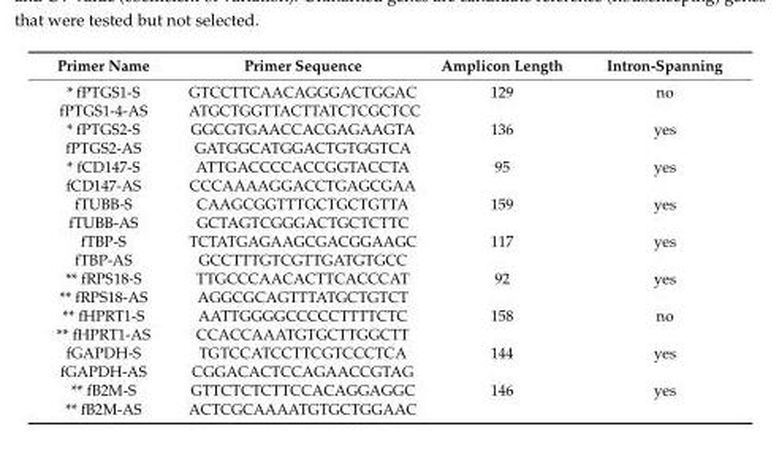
<table><thead><tr><td>Primer Name</td><td>Primer Sequence</td><td>Amplicon Length</td><td>Intron-Spanning</td></tr></thead><tbody><tr><td>* fPTGS1-S</td><td>GTCCTTCAACAGGGACTGGAC</td><td>129</td><td>no</td></tr><tr><td>fPTGS1-4-AS</td><td>ATGCTGGTTACTTATCTCGCTCC</td><td></td><td></td></tr><tr><td>* fPTGS2-S</td><td>GGCGTGAACCACGAGAAGTA</td><td>136</td><td>yes</td></tr><tr><td>fPTGS2-AS</td><td>GATGGCATGGACTGTGGTCA</td><td></td><td></td></tr><tr><td>* fCD147-S</td><td>ATTGACCCCACCGGTACCTA</td><td>95</td><td>yes</td></tr><tr><td>fCD147-AS</td><td>CCCAAAAGGACCTGAGCGAA</td><td></td><td></td></tr><tr><td>fTUBB-S</td><td>CAAGCGGTTTGCTGCTGTTA</td><td>159</td><td>yes</td></tr><tr><td>fTUBB-AS</td><td>GCTAGTCGGGACTGCTCTTC</td><td></td><td></td></tr><tr><td>fTBP-S</td><td>TCTATGAGAAGCGACGGAAGC</td><td>117</td><td>yes</td></tr><tr><td>fTBP-AS</td><td>GCCTTTGTCGTTGATGTGCC</td><td></td><td></td></tr><tr><td>** fRPS18-S</td><td>TTGCCCAACACTTCACCCAT</td><td>92</td><td>yes</td></tr><tr><td>** fRPS18-AS</td><td>AGGCGCAGTTTATGCTGTCT</td><td></td><td></td></tr><tr><td>** fHPRT1-S</td><td>AATTGGGGCCCCCTTTTCTC</td><td>158</td><td>no</td></tr><tr><td>** fHPRT1-AS</td><td>CCACCAAATGTGCTTGGCTT</td><td></td><td></td></tr><tr><td>fGAPDH-S</td><td>TGTCCATCCTTCGTCCCTCA</td><td>144</td><td>yes</td></tr><tr><td>fGAPDH-AS</td><td>CGGACACTCCAGAACCGTAG</td><td></td><td></td></tr><tr><td>** fB2M-S</td><td>GTTCTCTCTTCCACAGGAGGC</td><td>146</td><td>yes</td></tr><tr><td>** fB2M-AS</td><td>ACTCGCAAAATGTGCTGGAAC</td><td></td><td></td></tr></tbody></table>